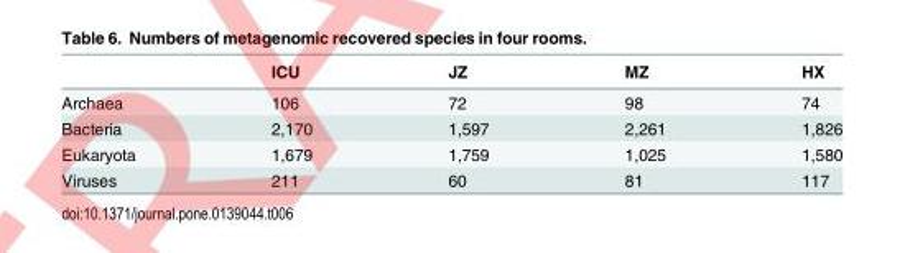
<table><thead><tr><td></td><td>ICU</td><td>JZ</td><td>MZ</td><td>HX</td></tr></thead><tbody><tr><td>Archaea</td><td>106</td><td>72</td><td>98</td><td>74</td></tr><tr><td>Bacteria</td><td>2,170</td><td>1,597</td><td>2,261</td><td>1,826</td></tr><tr><td>Eukaryota</td><td>1,679</td><td>1,759</td><td>1,025</td><td>1,580</td></tr><tr><td>Viruses</td><td>211</td><td>60</td><td>81</td><td>117</td></tr></tbody></table>